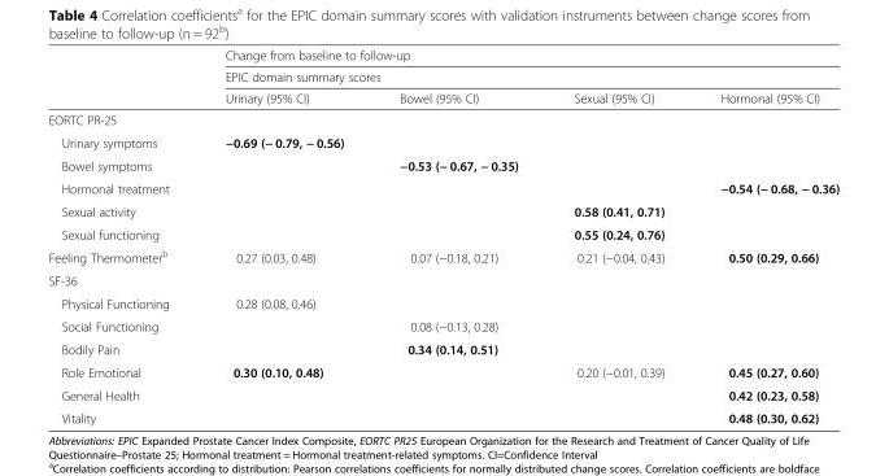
<table><thead><tr><td rowspan="3"></td><td rowspan="2" colspan="4">Change from baseline to follow-up EPIC domain summary scores</td></tr><tr></tr><tr><td>Urinary (95% CI)</td><td>Bowel (95% CI)</td><td>Sexual (95% CI)</td><td>Hormonal (95% CI)</td></tr></thead><tbody><tr><td colspan="5">EORTC PR-25</td></tr><tr><td>Urinary symptoms</td><td>−0.69 (− 0.79, − 0.56)</td><td></td><td></td><td></td></tr><tr><td>Bowel symptoms</td><td></td><td>−0.53 (− 0.67, − 0.35)</td><td></td><td></td></tr><tr><td>Hormonal treatment</td><td></td><td></td><td></td><td>−0.54 (− 0.68, − 0.36)</td></tr><tr><td>Sexual activity</td><td></td><td></td><td>0.58 (0.41, 0.71)</td><td></td></tr><tr><td>Sexual functioning</td><td></td><td></td><td>0.55 (0.24, 0.76)</td><td></td></tr><tr><td>Feeling Thermometer<sup>b</sup></td><td>0.27 (0.03, 0.48)</td><td>0.07 (−0.18, 0.21)</td><td>0.21 (−0.04, 0.43)</td><td>0.50 (0.29, 0.66)</td></tr><tr><td colspan="5">SF-36</td></tr><tr><td>Physical Functioning</td><td>0.28 (0.08, 0.46)</td><td></td><td></td><td></td></tr><tr><td>Social Functioning</td><td></td><td>0.08 (−0.13, 0.28)</td><td></td><td></td></tr><tr><td>Bodily Pain</td><td></td><td>0.34 (0.14, 0.51)</td><td></td><td></td></tr><tr><td>Role Emotional</td><td>0.30 (0.10, 0.48)</td><td></td><td>0.20 (−0.01, 0.39)</td><td>0.45 (0.27, 0.60)</td></tr><tr><td>General Health</td><td></td><td></td><td></td><td>0.42 (0.23, 0.58)</td></tr><tr><td>Vitality</td><td></td><td></td><td></td><td>0.48 (0.30, 0.62)</td></tr></tbody></table>